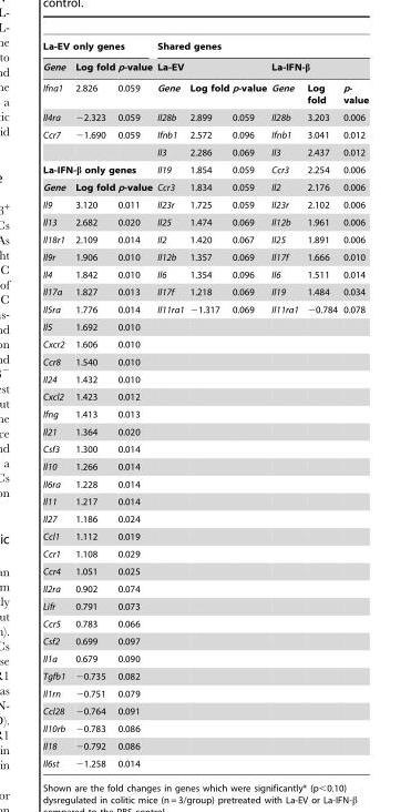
<table><thead><tr><td colspan="3">La-EV only genes</td><td colspan="6">Shared genes</td></tr><tr><td rowspan="2">Gene Ifna1</td><td rowspan="2">Log fold 2.826</td><td rowspan="2">p-value 0.059</td><td colspan="3">La-EV</td><td colspan="3">La-IFN-β</td></tr><tr><td>Gene</td><td>Log fold</td><td>p-value</td><td>Gene</td><td>Log fold</td><td>p- value</td></tr></thead><tbody><tr><td>Il4ra</td><td>−2.323</td><td>0.059</td><td>Il28b</td><td>2.899</td><td>0.059</td><td>Il28b</td><td>3.203</td><td>0.006</td></tr><tr><td rowspan="2">Ccr7</td><td>−1.690</td><td>0.059</td><td>Ifnb1</td><td>2.572</td><td>0.096</td><td>Ifnb1</td><td>3.041</td><td>0.012</td></tr><tr><td></td><td></td><td>Il3</td><td>2.286</td><td>0.069</td><td>Il3</td><td>2.437</td><td>0.012</td></tr><tr><td colspan="3">La-IFN-β only genes</td><td>Il19</td><td>1.854</td><td>0.059</td><td>Ccr3</td><td>2.254</td><td>0.006</td></tr><tr><td>Gene</td><td>Log fold</td><td>p-value</td><td>Ccr3</td><td>1.834</td><td>0.059</td><td>Il2</td><td>2.176</td><td>0.006</td></tr><tr><td>Il9</td><td>3.120</td><td>0.011</td><td>Il23r</td><td>1.725</td><td>0.059</td><td>Il23r</td><td>2.102</td><td>0.006</td></tr><tr><td>Il13</td><td>2.682</td><td>0.020</td><td>Il25</td><td>1.474</td><td>0.069</td><td>Il12b</td><td>1.961</td><td>0.006</td></tr><tr><td>Il18r1</td><td>2.109</td><td>0.014</td><td>Il2</td><td>1.420</td><td>0.067</td><td>Il25</td><td>1.891</td><td>0.006</td></tr><tr><td>Il9r</td><td>1.906</td><td>0.010</td><td>Il12b</td><td>1.357</td><td>0.069</td><td>Il17f</td><td>1.666</td><td>0.010</td></tr><tr><td>Il4</td><td>1.842</td><td>0.010</td><td>Il6</td><td>1.354</td><td>0.096</td><td>Il6</td><td>1.511</td><td>0.014</td></tr><tr><td>Il17a</td><td>1.827</td><td>0.013</td><td>Il17f</td><td>1.218</td><td>0.069</td><td>Il19</td><td>1.484</td><td>0.034</td></tr><tr><td>Il5ra</td><td>1.776</td><td>0.014</td><td>Il11ra1</td><td>−1.317</td><td>0.069</td><td>Il11ra1</td><td>−0.784</td><td>0.078</td></tr><tr><td>Il5</td><td>1.692</td><td>0.010</td><td></td><td></td><td></td><td></td><td></td><td></td></tr><tr><td>Cxcr2</td><td>1.606</td><td>0.010</td><td></td><td></td><td></td><td></td><td></td><td></td></tr><tr><td>Ccr8</td><td>1.540</td><td>0.010</td><td></td><td></td><td></td><td></td><td></td><td></td></tr><tr><td>Il24</td><td>1.432</td><td>0.010</td><td></td><td></td><td></td><td></td><td></td><td></td></tr><tr><td>Cxcl2</td><td>1.423</td><td>0.012</td><td></td><td></td><td></td><td></td><td></td><td></td></tr><tr><td>Ifng</td><td>1.413</td><td>0.013</td><td></td><td></td><td></td><td></td><td></td><td></td></tr><tr><td>Il21</td><td>1.364</td><td>0.020</td><td></td><td></td><td></td><td></td><td></td><td></td></tr><tr><td>Csf3</td><td>1.300</td><td>0.014</td><td></td><td></td><td></td><td></td><td></td><td></td></tr><tr><td>Il10</td><td>1.266</td><td>0.014</td><td></td><td></td><td></td><td></td><td></td><td></td></tr><tr><td>Il6ra</td><td>1.228</td><td>0.014</td><td></td><td></td><td></td><td></td><td></td><td></td></tr><tr><td>Il11</td><td>1.217</td><td>0.014</td><td></td><td></td><td></td><td></td><td></td><td></td></tr><tr><td>Il27</td><td>1.186</td><td>0.024</td><td></td><td></td><td></td><td></td><td></td><td></td></tr><tr><td>Ccl1</td><td>1.112</td><td>0.019</td><td></td><td></td><td></td><td></td><td></td><td></td></tr><tr><td>Ccr1</td><td>1.108</td><td>0.029</td><td></td><td></td><td></td><td></td><td></td><td></td></tr><tr><td>Ccr4</td><td>1.051</td><td>0.025</td><td></td><td></td><td></td><td></td><td></td><td></td></tr><tr><td>Il2ra</td><td>0.902</td><td>0.074</td><td></td><td></td><td></td><td></td><td></td><td></td></tr><tr><td>Lifr</td><td>0.791</td><td>0.073</td><td></td><td></td><td></td><td></td><td></td><td></td></tr><tr><td>Ccr5</td><td>0.783</td><td>0.066</td><td></td><td></td><td></td><td></td><td></td><td></td></tr><tr><td>Csf2</td><td>0.699</td><td>0.097</td><td></td><td></td><td></td><td></td><td></td><td></td></tr><tr><td>Il1a</td><td>0.679</td><td>0.090</td><td></td><td></td><td></td><td></td><td></td><td></td></tr><tr><td>Tgfb1</td><td>−0.735</td><td>0.082</td><td></td><td></td><td></td><td></td><td></td><td></td></tr><tr><td>Il1rn</td><td>−0.751</td><td>0.079</td><td></td><td></td><td></td><td></td><td></td><td></td></tr><tr><td>Ccl28</td><td>−0.764</td><td>0.091</td><td></td><td></td><td></td><td></td><td></td><td></td></tr><tr><td>Il10rb</td><td>−0.783</td><td>0.086</td><td></td><td></td><td></td><td></td><td></td><td></td></tr><tr><td>Il18</td><td>−0.792</td><td>0.086</td><td></td><td></td><td></td><td></td><td></td><td></td></tr><tr><td>Il6st</td><td>−1.258</td><td>0.014</td><td></td><td></td><td></td><td></td><td></td><td></td></tr></tbody></table>